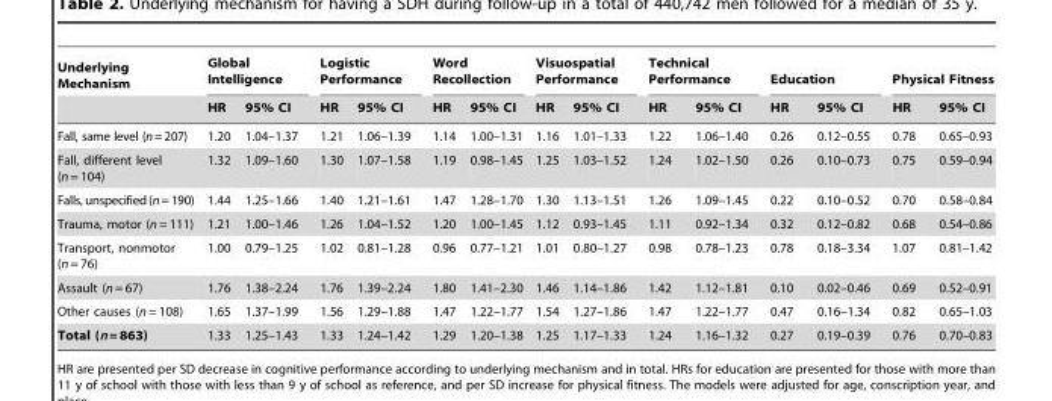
<table><thead><tr><td rowspan="2">Underlying Mechanism</td><td colspan="2">Global Intelligence</td><td colspan="2">Logistic Performance</td><td colspan="2">Word Recollection</td><td colspan="2">Visuospatial Performance</td><td colspan="2">Technical Performance</td><td colspan="2">Education</td><td colspan="2">Physical Fitness</td></tr><tr><td>HR</td><td>95% CI</td><td>HR</td><td>95% CI</td><td>HR</td><td>95% CI</td><td>HR</td><td>95% CI</td><td>HR</td><td>95% CI</td><td>HR</td><td>95% CI</td><td>HR</td><td>95% CI</td></tr></thead><tbody><tr><td>Fall, same level (n=207)</td><td>1.20</td><td>1.04–1.37</td><td>1.21</td><td>1.06–1.39</td><td>1.14</td><td>1.00–1.31</td><td>1.16</td><td>1.01–1.33</td><td>1.22</td><td>1.06–1.40</td><td>0.26</td><td>0.12–0.55</td><td>0.78</td><td>0.65–0.93</td></tr><tr><td>Fall, different level (n = 104)</td><td>1.32</td><td>1.09–1.60</td><td>1.30</td><td>1.07–1.58</td><td>1.19</td><td>0.98–1.45</td><td>1.25</td><td>1.03–1.52</td><td>1.24</td><td>1.02–1.50</td><td>0.26</td><td>0.10–0.73</td><td>0.75</td><td>0.59–0.94</td></tr><tr><td>Falls, unspecified (n=190)</td><td>1.44</td><td>1.25–1.66</td><td>1.40</td><td>1.21–1.61</td><td>1.47</td><td>1.28–1.70</td><td>1.30</td><td>1.13–1.51</td><td>1.26</td><td>1.09–1.45</td><td>0.22</td><td>0.10–0.52</td><td>0.70</td><td>0.58–0.84</td></tr><tr><td>Trauma, motor (n = 111)</td><td>1.21</td><td>1.00–1.46</td><td>1.26</td><td>1.04–1.52</td><td>1.20</td><td>1.00–1.45</td><td>1.12</td><td>0.93–1.45</td><td>1.11</td><td>0.92–1.34</td><td>0.32</td><td>0.12–0.82</td><td>0.68</td><td>0.54–0.86</td></tr><tr><td>Transport, nonmotor (n = 76)</td><td>1.00</td><td>0.79–1.25</td><td>1.02</td><td>0.81–1.28</td><td>0.96</td><td>0.77–1.21</td><td>1.01</td><td>0.80–1.27</td><td>0.98</td><td>0.78–1.23</td><td>0.78</td><td>0.18–3.34</td><td>1.07</td><td>0.81–1.42</td></tr><tr><td>Assault (n = 67)</td><td>1.76</td><td>1.38–2.24</td><td>1.76</td><td>1.39–2.24</td><td>1.80</td><td>1.41–2.30</td><td>1.46</td><td>1.14–1.86</td><td>1.42</td><td>1.12–1.81</td><td>0.10</td><td>0.02–0.46</td><td>0.69</td><td>0.52–0.91</td></tr><tr><td>Other causes (n = 108)</td><td>1.65</td><td>1.37–1.99</td><td>1.56</td><td>1.29–1.88</td><td>1.47</td><td>1.22–1.77</td><td>1.54</td><td>1.27–1.86</td><td>1.47</td><td>1.22–1.77</td><td>0.47</td><td>0.16–1.34</td><td>0.82</td><td>0.65–1.03</td></tr><tr><td>Total (n = 863)</td><td>1.33</td><td>1.25–1.43</td><td>1.33</td><td>1.24–1.42</td><td>1.29</td><td>1.20–1.38</td><td>1.25</td><td>1.17–1.33</td><td>1.24</td><td>1.16–1.32</td><td>0.27</td><td>0.19–0.39</td><td>0.76</td><td>0.70–0.83</td></tr></tbody></table>